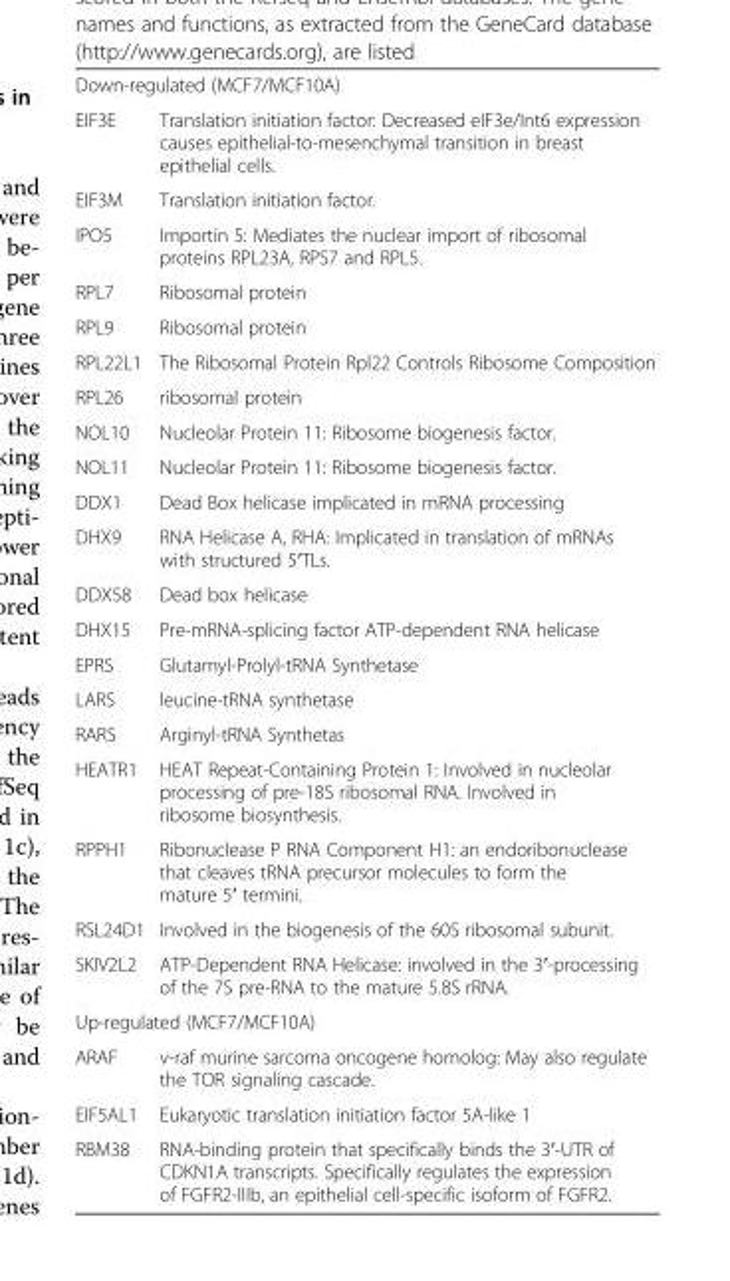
<table><tbody><tr><td colspan="2">Down-regulated (MCF7/MCF10A)</td></tr><tr><td>EIF3E</td><td>Translation initiation factor: Decreased eIF3e/Int6 expression causes epithelial-to-mesenchymal transition in breast epithelial cells.</td></tr><tr><td>EIF3M</td><td>Translation initiation factor.</td></tr><tr><td>IPO5</td><td>Importin 5: Mediates the nuclear import of ribosomal proteins RPL23A, RPS7 and RPL5.</td></tr><tr><td>RPL7</td><td>Ribosomal protein</td></tr><tr><td>RPL9</td><td>Ribosomal protein</td></tr><tr><td>RPL22L1</td><td>The Ribosomal Protein Rpl22 Controls Ribosome Composition</td></tr><tr><td>RPL26</td><td>ribosomal protein</td></tr><tr><td>NOL10</td><td>Nucleolar Protein 11: Ribosome biogenesis factor.</td></tr><tr><td>NOL11</td><td>Nucleolar Protein 11: Ribosome biogenesis factor.</td></tr><tr><td>DDX1</td><td>Dead Box helicase implicated in mRNA processing</td></tr><tr><td>DHX9</td><td>RNA Helicase A, RHA: Implicated in translation of mRNAs with structured 5′TLs.</td></tr><tr><td>DDX58</td><td>Dead box helicase</td></tr><tr><td>DHX15</td><td>Pre-mRNA-splicing factor ATP-dependent RNA helicase</td></tr><tr><td>EPRS</td><td>Glutamyl-Prolyl-tRNA Synthetase</td></tr><tr><td>LARS</td><td>leucine-tRNA synthetase</td></tr><tr><td>RARS</td><td>Arginyl-tRNA Synthetas</td></tr><tr><td>HEATR1</td><td>HEAT Repeat-Containing Protein 1: Involved in nucleolar processing of pre-18S ribosomal RNA. Involved in ribosome biosynthesis.</td></tr><tr><td>RPPH1</td><td>Ribonuclease P RNA Component H1: an endoribonuclease that cleaves tRNA precursor molecules to form the mature 5′ termini.</td></tr><tr><td>RSL24D1</td><td>Involved in the biogenesis of the 60S ribosomal subunit.</td></tr><tr><td>SKIV2L2</td><td>ATP-Dependent RNA Helicase: involved in the 3′-processing of the 7S pre-RNA to the mature 5.8S rRNA.</td></tr><tr><td colspan="2">Up-regulated (MCF7/MCF10A)</td></tr><tr><td>ARAF</td><td>v-raf murine sarcoma oncogene homolog: May also regulate the TOR signaling cascade.</td></tr><tr><td>EIF5AL1</td><td>Eukaryotic translation initiation factor 5A-like 1</td></tr><tr><td>RBM38</td><td>RNA-binding protein that specifically binds the 3′-UTR of CDKN1A transcripts. Specifically regulates the expression of FGFR2-IIIb, an epithelial cell-specific isoform of FGFR2.</td></tr></tbody></table>